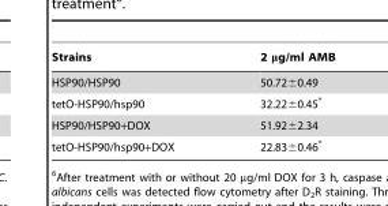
<table><thead><tr><td>Strains</td><td>2 μg/ml AMB</td></tr></thead><tbody><tr><td>HSP90/HSP90</td><td>50.72±0.49</td></tr><tr><td>tetO-HSP90/hsp90</td><td>32.22±0.45*</td></tr><tr><td>HSP90/HSP90+DOX</td><td>51.92±2.34</td></tr><tr><td>tetO-HSP90/hsp90+DOX</td><td>22.83±0.46*</td></tr></tbody></table>